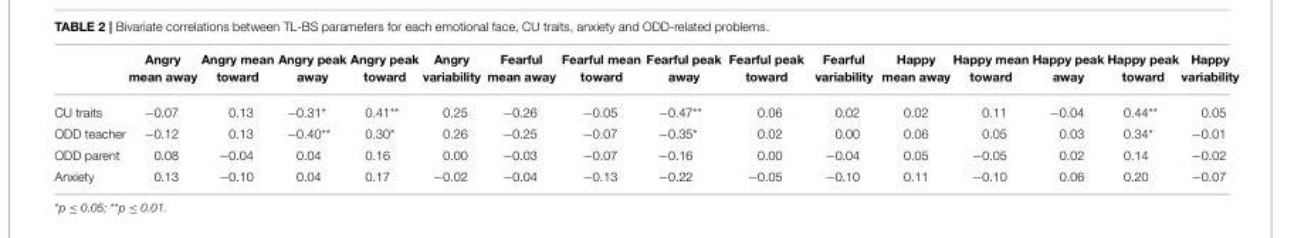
<table><thead><tr><td></td><td>Angry mean away</td><td>Angry mean toward</td><td>Angry peak away</td><td>Angry peak toward</td><td>Angry variability</td><td>Fearful mean away</td><td>Fearful mean toward</td><td>Fearful peak away</td><td>Fearful peak toward</td><td>Fearful variability</td><td>Happy mean away</td><td>Happy mean toward</td><td>Happy peak away</td><td>Happy peak toward</td><td>Happy variability</td></tr></thead><tbody><tr><td>CU traits</td><td>−0.07</td><td>0.13</td><td>−0.31*</td><td>0.41**</td><td>0.25</td><td>−0.26</td><td>−0.05</td><td>−0.47**</td><td>0.06</td><td>0.02</td><td>0.02</td><td>0.11</td><td>−0.04</td><td>0.44**</td><td>0.05</td></tr><tr><td>ODD teacher</td><td>−0.12</td><td>0.13</td><td>−0.40**</td><td>0.30*</td><td>0.26</td><td>−0.25</td><td>−0.07</td><td>−0.35*</td><td>0.02</td><td>0.00</td><td>0.06</td><td>0.05</td><td>0.03</td><td>0.34*</td><td>−0.01</td></tr><tr><td>ODD parent</td><td>0.08</td><td>−0.04</td><td>0.04</td><td>0.16</td><td>0.00</td><td>−0.03</td><td>−0.07</td><td>−0.16</td><td>0.00</td><td>−0.04</td><td>0.05</td><td>−0.05</td><td>0.02</td><td>0.14</td><td>−0.02</td></tr><tr><td>Anxiety</td><td>0.13</td><td>−0.10</td><td>0.04</td><td>0.17</td><td>−0.02</td><td>−0.04</td><td>−0.13</td><td>−0.22</td><td>−0.05</td><td>−0.10</td><td>0.11</td><td>−0.10</td><td>0.06</td><td>0.20</td><td>−0.07</td></tr></tbody></table>